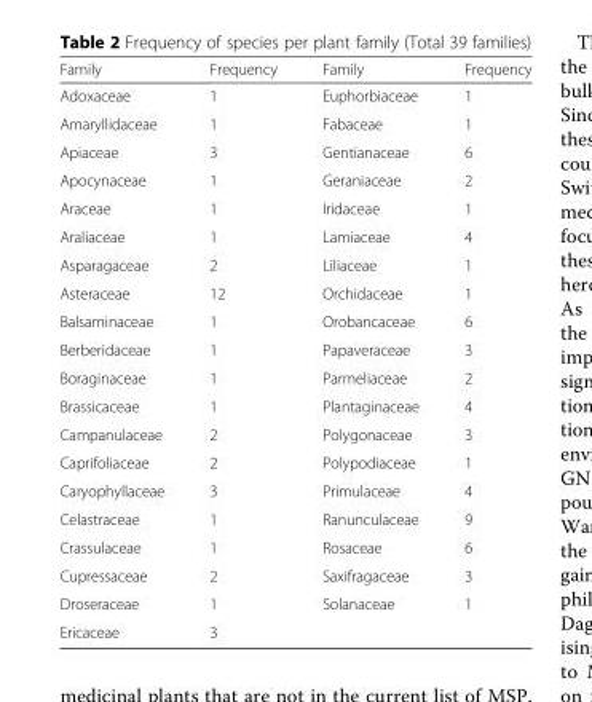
<table><thead><tr><td>Family</td><td>Frequency</td><td>Family</td><td>Frequency</td></tr></thead><tbody><tr><td>Adoxaceae</td><td>1</td><td>Euphorbiaceae</td><td>1</td></tr><tr><td>Amaryllidaceae</td><td>1</td><td>Fabaceae</td><td>1</td></tr><tr><td>Apiaceae</td><td>3</td><td>Gentianaceae</td><td>6</td></tr><tr><td>Apocynaceae</td><td>1</td><td>Geraniaceae</td><td>2</td></tr><tr><td>Araceae</td><td>1</td><td>Iridaceae</td><td>1</td></tr><tr><td>Araliaceae</td><td>1</td><td>Lamiaceae</td><td>4</td></tr><tr><td>Asparagaceae</td><td>2</td><td>Liliaceae</td><td>1</td></tr><tr><td>Asteraceae</td><td>12</td><td>Orchidaceae</td><td>1</td></tr><tr><td>Balsaminaceae</td><td>1</td><td>Orobancaceae</td><td>6</td></tr><tr><td>Berberidaceae</td><td>1</td><td>Papaveraceae</td><td>3</td></tr><tr><td>Boraginaceae</td><td>1</td><td>Parmeliaceae</td><td>2</td></tr><tr><td>Brassicaceae</td><td>1</td><td>Plantaginaceae</td><td>4</td></tr><tr><td>Campanulaceae</td><td>2</td><td>Polygonaceae</td><td>3</td></tr><tr><td>Caprifoliaceae</td><td>2</td><td>Polypodiaceae</td><td>1</td></tr><tr><td>Caryophyllaceae</td><td>3</td><td>Primulaceae</td><td>4</td></tr><tr><td>Celastraceae</td><td>1</td><td>Ranunculaceae</td><td>9</td></tr><tr><td>Crassulaceae</td><td>1</td><td>Rosaceae</td><td>6</td></tr><tr><td>Cupressaceae</td><td>2</td><td>Saxifragaceae</td><td>3</td></tr><tr><td>Droseraceae</td><td>1</td><td>Solanaceae</td><td>1</td></tr><tr><td>Ericaceae</td><td>3</td><td></td><td></td></tr></tbody></table>